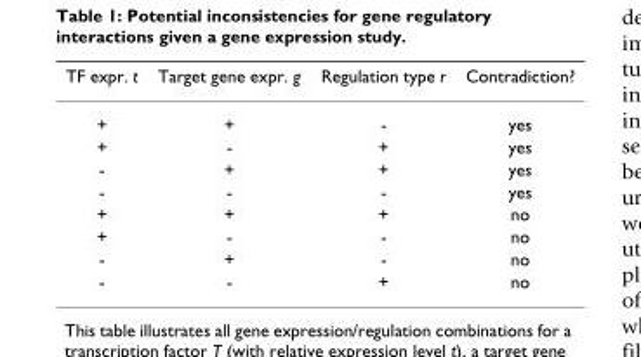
<table><thead><tr><td>TF expr. t</td><td>Target gene expr. g</td><td>Regulation type r</td><td>Contradiction?</td></tr></thead><tbody><tr><td>+</td><td>+</td><td>-</td><td>yes</td></tr><tr><td>+</td><td>-</td><td>+</td><td>yes</td></tr><tr><td>-</td><td>+</td><td>+</td><td>yes</td></tr><tr><td>-</td><td>-</td><td>-</td><td>yes</td></tr><tr><td>+</td><td>+</td><td>+</td><td>no</td></tr><tr><td>+</td><td>-</td><td>-</td><td>no</td></tr><tr><td>-</td><td>+</td><td>-</td><td>no</td></tr><tr><td>-</td><td>-</td><td>+</td><td>no</td></tr></tbody></table>